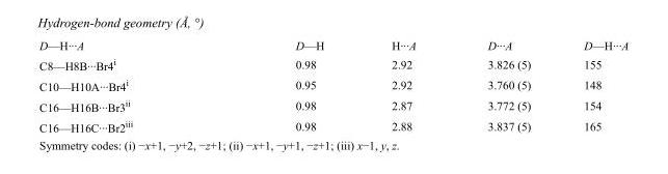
<table><tbody><tr><td>D—H···A</td><td>D—H</td><td>H···A</td><td>D···A</td><td>D—H···A</td></tr><tr><td>C8—H8B···Br4<sup>i</sup></td><td>0.98</td><td>2.92</td><td>3.826 (5)</td><td>155</td></tr><tr><td>C10—H10A···Br4<sup>i</sup></td><td>0.95</td><td>2.92</td><td>3.760 (5)</td><td>148</td></tr><tr><td>C16—H16B···Br3<sup>ii</sup></td><td>0.98</td><td>2.87</td><td>3.772 (5)</td><td>154</td></tr><tr><td>C16—H16C···Br2<sup>iii</sup></td><td>0.98</td><td>2.88</td><td>3.837 (5)</td><td>165</td></tr></tbody></table>